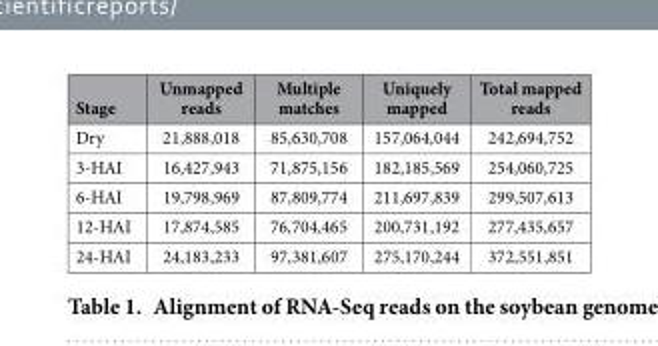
<table><thead><tr><td>Stage</td><td>Unmapped reads</td><td>Multiple matches</td><td>Uniquely mapped</td><td>Total mapped reads</td></tr></thead><tbody><tr><td>Dry</td><td>21,888,018</td><td>85,630,708</td><td>157,064,044</td><td>242,694,752</td></tr><tr><td>3-HAI</td><td>16,427,943</td><td>71,875,156</td><td>182,185,569</td><td>254,060,725</td></tr><tr><td>6-HAI</td><td>19,798,969</td><td>87,809,774</td><td>211,697,839</td><td>299,507,613</td></tr><tr><td>12-HAI</td><td>17,874,585</td><td>76,704,465</td><td>200,731,192</td><td>277,435,657</td></tr><tr><td>24-HAI</td><td>24,183,233</td><td>97,381,607</td><td>275,170,244</td><td>372,551,851</td></tr></tbody></table>